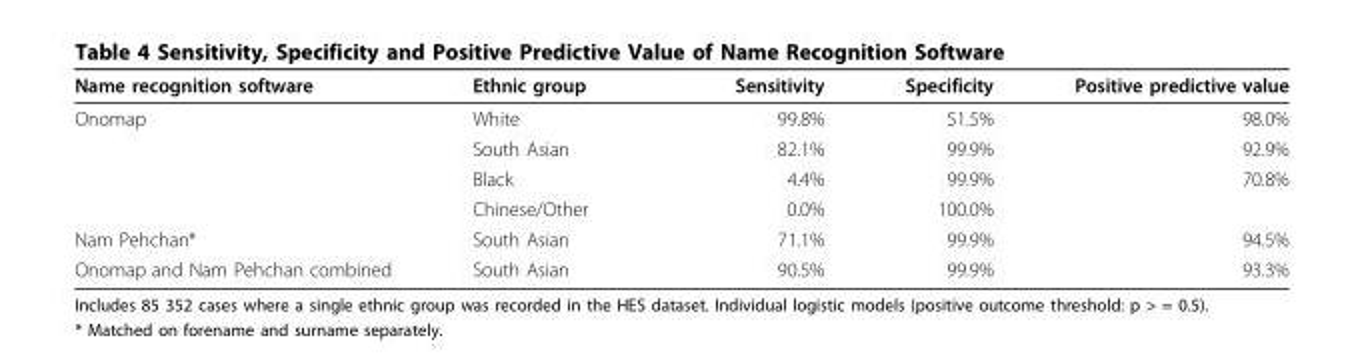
<table><thead><tr><td>Name recognition software</td><td>Ethnic group</td><td>Sensitivity</td><td>Specificity</td><td>Positive predictive value</td></tr></thead><tbody><tr><td rowspan="4">Onomap</td><td>White</td><td>99.8%</td><td>51.5%</td><td>98.0%</td></tr><tr><td>South Asian</td><td>82.1%</td><td>99.9%</td><td>92.9%</td></tr><tr><td>Black</td><td>4.4%</td><td>99.9%</td><td>70.8%</td></tr><tr><td>Chinese/Other</td><td>0.0%</td><td>100.0%</td><td></td></tr><tr><td>Nam Pehchan*</td><td>South Asian</td><td>71.1%</td><td>99.9%</td><td>94.5%</td></tr><tr><td>Onomap and Nam Pehchan combined</td><td>South Asian</td><td>90.5%</td><td>99.9%</td><td>93.3%</td></tr></tbody></table>